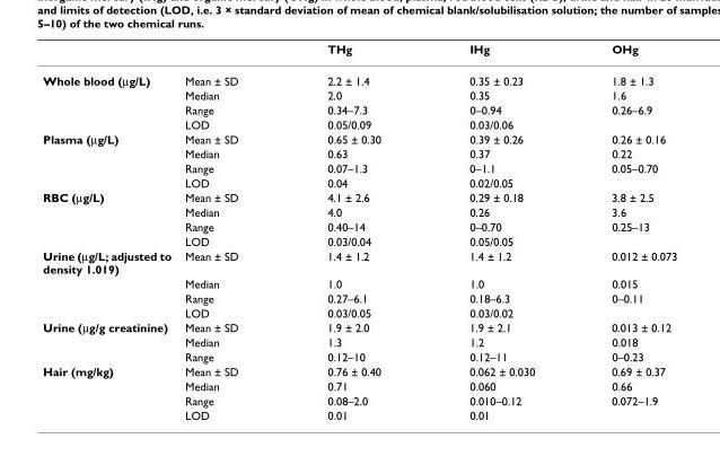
<table><thead><tr><td></td><td></td><td>THg</td><td>IHg</td><td>OHg</td></tr></thead><tbody><tr><td rowspan="4">Whole blood (µg/L)</td><td>Mean ± SD</td><td>2.2 ± 1.4</td><td>0.35 ± 0.23</td><td>1.8 ± 1.3</td></tr><tr><td>Median</td><td>2.0</td><td>0.35</td><td>1.6</td></tr><tr><td>Range</td><td>0.34–7.3</td><td>0–0.94</td><td>0.26–6.9</td></tr><tr><td>LOD</td><td>0.05/0.09</td><td>0.03/0.06</td><td></td></tr><tr><td rowspan="4">Plasma (µg/L)</td><td>Mean ± SD</td><td>0.65 ± 0.30</td><td>0.39 ± 0.26</td><td>0.26 ± 0.16</td></tr><tr><td>Median</td><td>0.63</td><td>0.37</td><td>0.22</td></tr><tr><td>Range</td><td>0.07–1.3</td><td>0–1.1</td><td>0.05–0.70</td></tr><tr><td>LOD</td><td>0.04</td><td>0.02/0.05</td><td></td></tr><tr><td rowspan="4">RBC (µg/L)</td><td>Mean ± SD</td><td>4.1 ± 2.6</td><td>0.29 ± 0.18</td><td>3.8 ± 2.5</td></tr><tr><td>Median</td><td>4.0</td><td>0.26</td><td>3.6</td></tr><tr><td>Range</td><td>0.40–14</td><td>0–0.70</td><td>0.25–13</td></tr><tr><td>LOD</td><td>0.03/0.04</td><td>0.05/0.05</td><td></td></tr><tr><td rowspan="4">Urine (µg/L; adjusted to density 1.019)</td><td>Mean ± SD</td><td>1.4 ± 1.2</td><td>1.4 ± 1.2</td><td>0.012 ± 0.073</td></tr><tr><td>Median</td><td>1.0</td><td>1.0</td><td>0.015</td></tr><tr><td>Range</td><td>0.27–6.1</td><td>0.18–6.3</td><td>0–0.11</td></tr><tr><td>LOD</td><td>0.03/0.05</td><td>0.03/0.02</td><td></td></tr><tr><td rowspan="3">Urine (µg/g creatinine)</td><td>Mean ± SD</td><td>1.9 ± 2.0</td><td>1.9 ± 2.1</td><td>0.013 ± 0.12</td></tr><tr><td>Median</td><td>1.3</td><td>1.2</td><td>0.018</td></tr><tr><td>Range</td><td>0.12–10</td><td>0.12–11</td><td>0–0.23</td></tr><tr><td rowspan="4">Hair (mg/kg)</td><td>Mean ± SD</td><td>0.76 ± 0.40</td><td>0.062 ± 0.030</td><td>0.69 ± 0.37</td></tr><tr><td>Median</td><td>0.71</td><td>0.060</td><td>0.66</td></tr><tr><td>Range</td><td>0.08–2.0</td><td>0.010–0.12</td><td>0.072–1.9</td></tr><tr><td>LOD</td><td>0.01</td><td>0.01</td><td></td></tr></tbody></table>